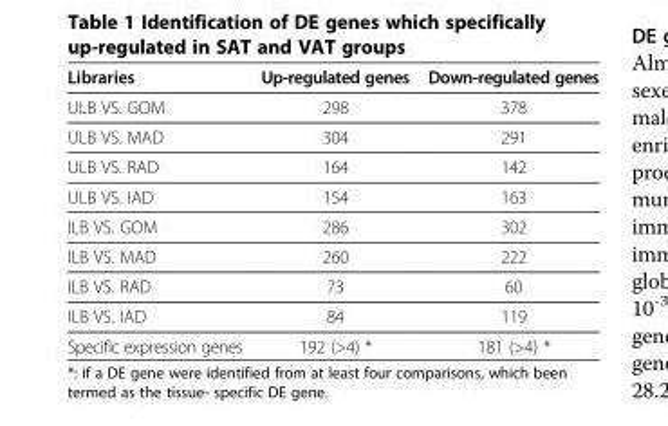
<table><thead><tr><td>Libraries</td><td>Up-regulated genes</td><td>Down-regulated genes</td></tr></thead><tbody><tr><td>ULB VS. GOM</td><td>298</td><td>378</td></tr><tr><td>ULB VS. MAD</td><td>304</td><td>291</td></tr><tr><td>ULB VS. RAD</td><td>164</td><td>142</td></tr><tr><td>ULB VS. IAD</td><td>154</td><td>163</td></tr><tr><td>ILB VS. GOM</td><td>286</td><td>302</td></tr><tr><td>ILB VS. MAD</td><td>260</td><td>222</td></tr><tr><td>ILB VS. RAD</td><td>73</td><td>60</td></tr><tr><td>ILB VS. IAD</td><td>84</td><td>119</td></tr><tr><td>Specific expression genes</td><td>192 (&gt;4) *</td><td>181 (&gt;4) *</td></tr></tbody></table>